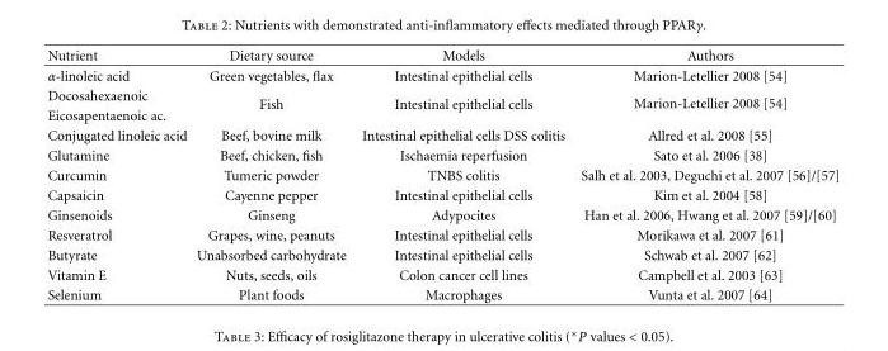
<table><thead><tr><td>Nutrient</td><td>Dietary source</td><td>Models</td><td>Authors</td></tr></thead><tbody><tr><td>α-linoleic acid</td><td>Green vegetables, flax</td><td>Intestinal epithelial cells</td><td>Marion-Letellier 2008 [54]</td></tr><tr><td>Docosahexaenoic</td><td rowspan="2">Fish</td><td rowspan="2">Intestinal epithelial cells</td><td rowspan="2">Marion-Letellier 2008 [54]</td></tr><tr><td>Eicosapentaenoic ac.</td></tr><tr><td>Conjugated linoleic acid</td><td>Beef, bovine milk</td><td>Intestinal epithelial cells DSS colitis</td><td>Allred et al. 2008 [55]</td></tr><tr><td>Glutamine</td><td>Beef, chicken, fish</td><td>Ischaemia reperfusion</td><td>Sato et al. 2006 [38]</td></tr><tr><td>Curcumin</td><td>Tumeric powder</td><td>TNBS colitis</td><td>Salh et al. 2003, Deguchi et al. 2007 [56]/[57]</td></tr><tr><td>Capsaicin</td><td>Cayenne pepper</td><td>Intestinal epithelial cells</td><td>Kim et al. 2004 [58]</td></tr><tr><td>Ginsenoids</td><td>Ginseng</td><td>Adypocites</td><td>Han et al. 2006, Hwang et al. 2007 [59]/[60]</td></tr><tr><td>Resveratrol</td><td>Grapes, wine, peanuts</td><td>Intestinal epithelial cells</td><td>Morikawa et al. 2007 [61]</td></tr><tr><td>Butyrate</td><td>Unabsorbed carbohydrate</td><td>Intestinal epithelial cells</td><td>Schwab et al. 2007 [62]</td></tr><tr><td>Vitamin E</td><td>Nuts, seeds, oils</td><td>Colon cancer cell lines</td><td>Campbell et al. 2003 [63]</td></tr><tr><td>Selenium</td><td>Plant foods</td><td>Macrophages</td><td>Vunta et al. 2007 [64]</td></tr></tbody></table>